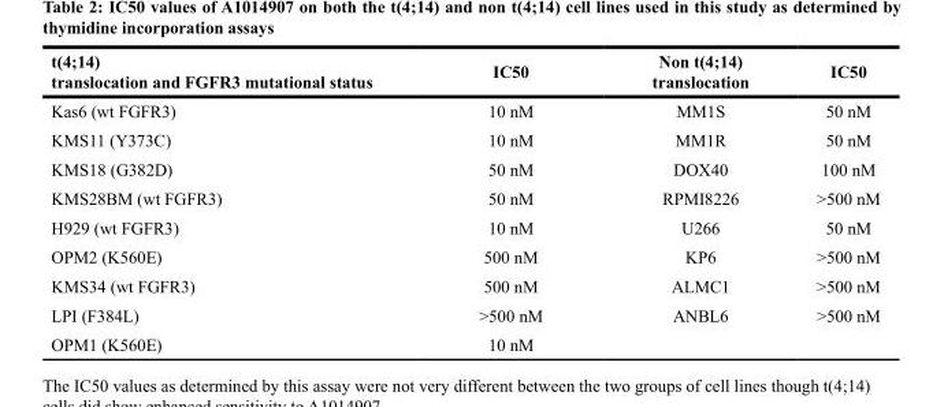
<table><thead><tr><td>t(4;14) translocation and FGFR3 mutational status</td><td>IC50</td><td>Non t(4;14) translocation</td><td>IC50</td></tr></thead><tbody><tr><td>Kas6 (wt FGFR3)</td><td>10 nM</td><td>MM1S</td><td>50 nM</td></tr><tr><td>KMS11 (Y373C)</td><td>10 nM</td><td>MM1R</td><td>50 nM</td></tr><tr><td>KMS18 (G382D)</td><td>50 nM</td><td>DOX40</td><td>100 nM</td></tr><tr><td>KMS28BM (wt FGFR3)</td><td>50 nM</td><td>RPMI8226</td><td>&gt;500 nM</td></tr><tr><td>H929 (wt FGFR3)</td><td>10 nM</td><td>U266</td><td>50 nM</td></tr><tr><td>OPM2 (K560E)</td><td>500 nM</td><td>KP6</td><td>&gt;500 nM</td></tr><tr><td>KMS34 (wt FGFR3)</td><td>500 nM</td><td>ALMC1</td><td>&gt;500 nM</td></tr><tr><td>LPI (F384L)</td><td>&gt;500 nM</td><td>ANBL6</td><td>&gt;500 nM</td></tr><tr><td>OPM1 (K560E)</td><td>10 nM</td><td></td><td></td></tr></tbody></table>